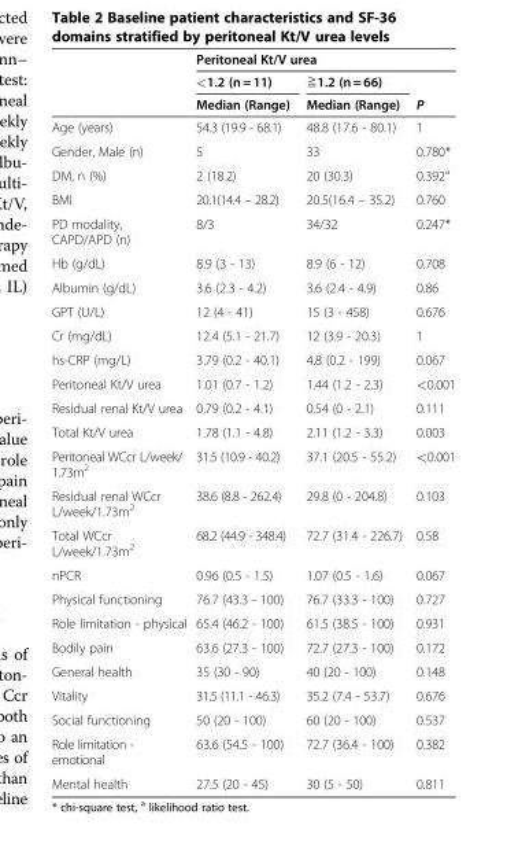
<table><thead><tr><td rowspan="3"></td><td colspan="2">Peritoneal Kt/V urea</td><td rowspan="3">P</td></tr><tr><td rowspan="2">&lt;1.2 (n = 11) Median (Range)</td><td rowspan="2">≧1.2 (n = 66) Median (Range)</td></tr><tr></tr></thead><tbody><tr><td>Age (years)</td><td>54.3 (19.9 - 68.1)</td><td>48.8 (17.6 - 80.1)</td><td>1</td></tr><tr><td>Gender, Male (n)</td><td>5</td><td>33</td><td>0.780*</td></tr><tr><td>DM, n (%)</td><td>2 (18.2)</td><td>20 (30.3)</td><td>0.392<sup>a</sup></td></tr><tr><td>BMI</td><td>20.1(14.4 – 28.2)</td><td>20.5(16.4 – 35.2)</td><td>0.760</td></tr><tr><td>PD modality, CAPD/APD (n)</td><td>8/3</td><td>34/32</td><td>0.247*</td></tr><tr><td>Hb (g/dL)</td><td>8.9 (3 - 13)</td><td>8.9 (6 - 12)</td><td>0.708</td></tr><tr><td>Albumin (g/dL)</td><td>3.6 (2.3 - 4.2)</td><td>3.6 (2.4 - 4.9)</td><td>0.86</td></tr><tr><td>GPT (U/L)</td><td>12 (4 - 41)</td><td>15 (3 - 458)</td><td>0.676</td></tr><tr><td>Cr (mg/dL)</td><td>12.4 (5.1 - 21.7)</td><td>12 (3.9 - 20.3)</td><td>1</td></tr><tr><td>hs-CRP (mg/L)</td><td>3.79 (0.2 - 40.1)</td><td>4.8 (0.2 - 199)</td><td>0.067</td></tr><tr><td>Peritoneal Kt/V urea</td><td>1.01 (0.7 - 1.2)</td><td>1.44 (1.2 - 2.3)</td><td>&lt;0.001</td></tr><tr><td>Residual renal Kt/V urea</td><td>0.79 (0.2 - 4.1)</td><td>0.54 (0 - 2.1)</td><td>0.111</td></tr><tr><td>Total Kt/V urea</td><td>1.78 (1.1 - 4.8)</td><td>2.11 (1.2 - 3.3)</td><td>0.003</td></tr><tr><td>Peritoneal WCcr L/week/ 1.73m<sup>2</sup></td><td>31.5 (10.9 - 40.2)</td><td>37.1 (20.5 - 55.2)</td><td>&lt;0.001</td></tr><tr><td>Residual renal WCcr L/week/1.73m<sup>2</sup></td><td>38.6 (8.8 - 262.4)</td><td>29.8 (0 - 204.8)</td><td>0.103</td></tr><tr><td>Total WCcr L/week/1.73m<sup>2</sup></td><td>68.2 (44.9 - 348.4)</td><td>72.7 (31.4 - 226.7)</td><td>0.58</td></tr><tr><td>nPCR</td><td>0.96 (0.5 - 1.5)</td><td>1.07 (0.5 - 1.6)</td><td>0.067</td></tr><tr><td>Physical functioning</td><td>76.7 (43.3 - 100)</td><td>76.7 (33.3 - 100)</td><td>0.727</td></tr><tr><td>Role limitation - physical</td><td>65.4 (46.2 - 100)</td><td>61.5 (38.5 - 100)</td><td>0.931</td></tr><tr><td>Bodily pain</td><td>63.6 (27.3 - 100)</td><td>72.7 (27.3 - 100)</td><td>0.172</td></tr><tr><td>General health</td><td>35 (30 - 90)</td><td>40 (20 - 100)</td><td>0.148</td></tr><tr><td>Vitality</td><td>31.5 (11.1 - 46.3)</td><td>35.2 (7.4 - 53.7)</td><td>0.676</td></tr><tr><td>Social functioning</td><td>50 (20 - 100)</td><td>60 (20 - 100)</td><td>0.537</td></tr><tr><td>Role limitation - emotional</td><td>63.6 (54.5 - 100)</td><td>72.7 (36.4 - 100)</td><td>0.382</td></tr><tr><td>Mental health</td><td>27.5 (20 - 45)</td><td>30 (5 - 50)</td><td>0.811</td></tr></tbody></table>